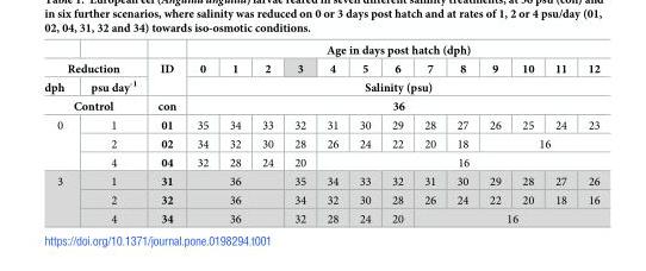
<table><thead><tr><td></td><td></td><td rowspan="4">ID con</td><td colspan="13">Age in days post hatch (dph)</td></tr><tr><td colspan="2">Reduction</td><td>0</td><td>1</td><td>2</td><td>3</td><td>4</td><td>5</td><td>6</td><td>7</td><td>8</td><td>9</td><td>10</td><td>11</td><td>12</td></tr><tr><td>dph</td><td>psu day<sup>-1</sup></td><td rowspan="2" colspan="13">Salinity (psu) 36</td></tr><tr><td colspan="2">Control</td></tr></thead><tbody><tr><td rowspan="3">0</td><td>1</td><td>01</td><td>35</td><td>34</td><td>33</td><td>32</td><td>31</td><td>30</td><td>29</td><td>28</td><td>27</td><td>26</td><td>25</td><td>24</td><td>23</td></tr><tr><td>2</td><td>02</td><td>34</td><td>32</td><td>30</td><td>28</td><td>26</td><td>24</td><td>22</td><td>20</td><td>18</td><td colspan="4">16</td></tr><tr><td>4</td><td>04</td><td>32</td><td>28</td><td>24</td><td>20</td><td colspan="9">16</td></tr><tr><td rowspan="3">3</td><td>1</td><td>31</td><td colspan="3">36</td><td>35</td><td>34</td><td>33</td><td>32</td><td>31</td><td>30</td><td>29</td><td>28</td><td>27</td><td>26</td></tr><tr><td>2</td><td>32</td><td colspan="3">36</td><td>34</td><td>32</td><td>30</td><td>28</td><td>26</td><td>24</td><td>22</td><td>20</td><td>18</td><td>16</td></tr><tr><td>4</td><td>34</td><td colspan="3">36</td><td>32</td><td>28</td><td>24</td><td>20</td><td colspan="6">16</td></tr></tbody></table>